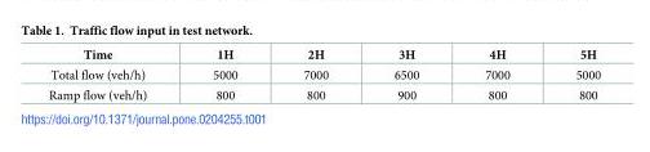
<table><thead><tr><td>Time</td><td>1H</td><td>2H</td><td>3H</td><td>4H</td><td>5H</td></tr></thead><tbody><tr><td>Total flow (veh/h)</td><td>5000</td><td>7000</td><td>6500</td><td>7000</td><td>5000</td></tr><tr><td>Ramp flow (veh/h)</td><td>800</td><td>800</td><td>900</td><td>800</td><td>800</td></tr></tbody></table>